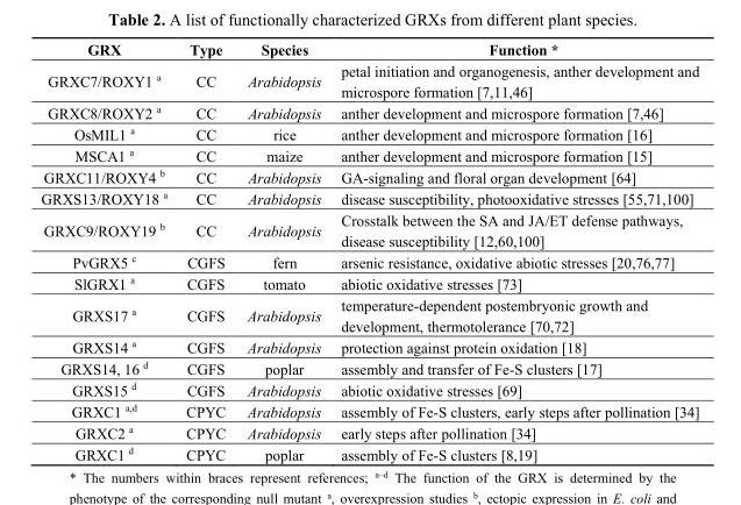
<table><thead><tr><td>GRX</td><td>Type</td><td>Species</td><td>Function *</td></tr></thead><tbody><tr><td>GRXC7/ROXY1 <sup>a</sup></td><td>CC</td><td>Arabidopsis</td><td>petal initiation and organogenesis, anther development and microspore formation [7,11,46]</td></tr><tr><td>GRXC8/ROXY2 <sup>a</sup></td><td>CC</td><td>Arabidopsis</td><td>anther development and microspore formation [7,46]</td></tr><tr><td>OsMIL1 <sup>a</sup></td><td>CC</td><td>rice</td><td>anther development and microspore formation [16]</td></tr><tr><td>MSCA1 <sup>a</sup></td><td>CC</td><td>maize</td><td>anther development and microspore formation [15]</td></tr><tr><td>GRXC11/ROXY4 <sup>b</sup></td><td>CC</td><td>Arabidopsis</td><td>GA-signaling and floral organ development [64]</td></tr><tr><td>GRXS13/ROXY18 <sup>a</sup></td><td>CC</td><td>Arabidopsis</td><td>disease susceptibility, photooxidative stresses [55,71,100]</td></tr><tr><td>GRXC9/ROXY19 <sup>b</sup></td><td>CC</td><td>Arabidopsis</td><td>Crosstalk between the SA and JA/ET defense pathways, disease susceptibility [12,60,100]</td></tr><tr><td>PvGRX5 <sup>c</sup></td><td>CGFS</td><td>fern</td><td>arsenic resistance, oxidative abiotic stresses [20,76,77]</td></tr><tr><td>SlGRX1 <sup>a</sup></td><td>CGFS</td><td>tomato</td><td>abiotic oxidative stresses [73]</td></tr><tr><td>GRXS17 <sup>a</sup></td><td>CGFS</td><td>Arabidopsis</td><td>temperature-dependent postembryonic growth and development, thermotolerance [70,72]</td></tr><tr><td>GRXS14 <sup>a</sup></td><td>CGFS</td><td>Arabidopsis</td><td>protection against protein oxidation [18]</td></tr><tr><td>GRXS14, 16 <sup>d</sup></td><td>CGFS</td><td>poplar</td><td>assembly and transfer of Fe-S clusters [17]</td></tr><tr><td>GRXS15 <sup>d</sup></td><td>CGFS</td><td>Arabidopsis</td><td>abiotic oxidative stresses [69]</td></tr><tr><td>GRXC1 <sup>a,d</sup></td><td>CPYC</td><td>Arabidopsis</td><td>assembly of Fe-S clusters, early steps after pollination [34]</td></tr><tr><td>GRXC2 <sup>a</sup></td><td>CPYC</td><td>Arabidopsis</td><td>early steps after pollination [34]</td></tr><tr><td>GRXC1 <sup>d</sup></td><td>CPYC</td><td>poplar</td><td>assembly of Fe-S clusters [8,19]</td></tr></tbody></table>